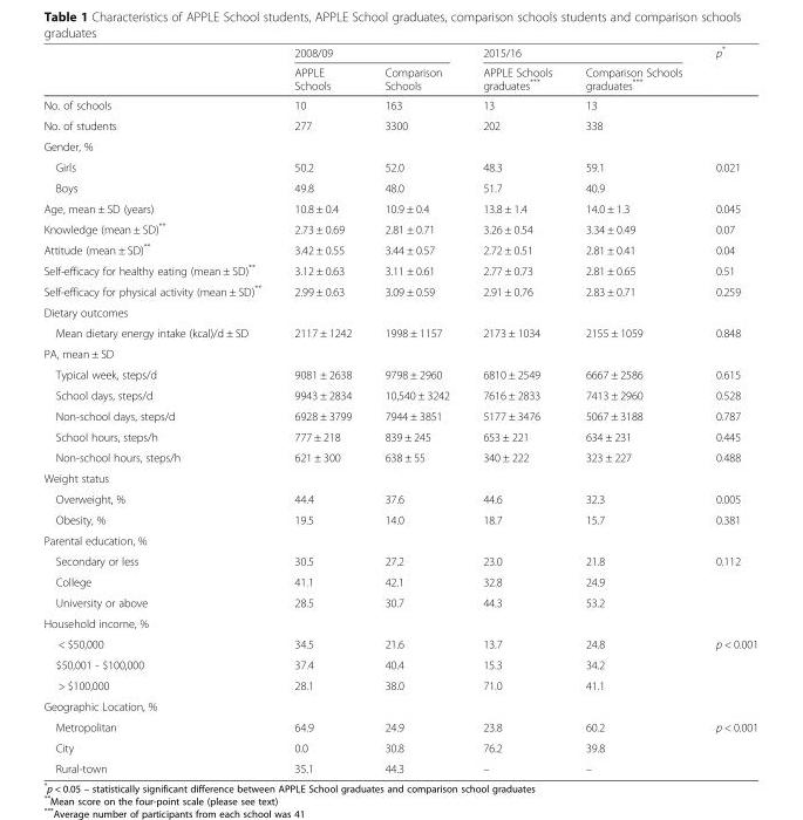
<table><thead><tr><td rowspan="2"></td><td colspan="2">2008/09</td><td colspan="2">2015/16</td><td rowspan="2">p*</td></tr><tr><td>APPLE Schools</td><td>Comparison Schools</td><td>APPLE Schools graduates***</td><td>Comparison Schools graduates***</td></tr></thead><tbody><tr><td>No. of schools</td><td>10</td><td>163</td><td>13</td><td>13</td><td></td></tr><tr><td>No. of students</td><td>277</td><td>3300</td><td>202</td><td>338</td><td></td></tr><tr><td colspan="6">Gender, %</td></tr><tr><td>Girls</td><td>50.2</td><td>52.0</td><td>48.3</td><td>59.1</td><td>0.021</td></tr><tr><td>Boys</td><td>49.8</td><td>48.0</td><td>51.7</td><td>40.9</td><td></td></tr><tr><td>Age, mean ± SD (years)</td><td>10.8 ± 0.4</td><td>10.9 ± 0.4</td><td>13.8 ± 1.4</td><td>14.0 ± 1.3</td><td>0.045</td></tr><tr><td>Knowledge (mean ± SD)**</td><td>2.73 ± 0.69</td><td>2.81 ± 0.71</td><td>3.26 ± 0.54</td><td>3.34 ± 0.49</td><td>0.07</td></tr><tr><td>Attitude (mean ± SD)**</td><td>3.42 ± 0.55</td><td>3.44 ± 0.57</td><td>2.72 ± 0.51</td><td>2.81 ± 0.41</td><td>0.04</td></tr><tr><td>Self-efficacy for healthy eating (mean ± SD)**</td><td>3.12 ± 0.63</td><td>3.11 ± 0.61</td><td>2.77 ± 0.73</td><td>2.81 ± 0.65</td><td>0.51</td></tr><tr><td>Self-efficacy for physical activity (mean ± SD)**</td><td>2.99 ± 0.63</td><td>3.09 ± 0.59</td><td>2.91 ± 0.76</td><td>2.83 ± 0.71</td><td>0.259</td></tr><tr><td colspan="6">Dietary outcomes</td></tr><tr><td>Mean dietary energy intake (kcal)/d ± SD</td><td>2117 ± 1242</td><td>1998 ± 1157</td><td>2173 ± 1034</td><td>2155 ± 1059</td><td>0.848</td></tr><tr><td colspan="6">PA, mean ± SD</td></tr><tr><td>Typical week, steps/d</td><td>9081 ± 2638</td><td>9798 ± 2960</td><td>6810 ± 2549</td><td>6667 ± 2586</td><td>0.615</td></tr><tr><td>School days, steps/d</td><td>9943 ± 2834</td><td>10,540 ± 3242</td><td>7616 ± 2833</td><td>7413 ± 2960</td><td>0.528</td></tr><tr><td>Non-school days, steps/d</td><td>6928 ± 3799</td><td>7944 ± 3851</td><td>5177 ± 3476</td><td>5067 ± 3188</td><td>0.787</td></tr><tr><td>School hours, steps/h</td><td>777 ± 218</td><td>839 ± 245</td><td>653 ± 221</td><td>634 ± 231</td><td>0.445</td></tr><tr><td>Non-school hours, steps/h</td><td>621 ± 300</td><td>638 ± 55</td><td>340 ± 222</td><td>323 ± 227</td><td>0.488</td></tr><tr><td colspan="6">Weight status</td></tr><tr><td>Overweight, %</td><td>44.4</td><td>37.6</td><td>44.6</td><td>32.3</td><td>0.005</td></tr><tr><td>Obesity, %</td><td>19.5</td><td>14.0</td><td>18.7</td><td>15.7</td><td>0.381</td></tr><tr><td colspan="6">Parental education, %</td></tr><tr><td>Secondary or less</td><td>30.5</td><td>27.2</td><td>23.0</td><td>21.8</td><td>0.112</td></tr><tr><td>College</td><td>41.1</td><td>42.1</td><td>32.8</td><td>24.9</td><td></td></tr><tr><td>University or above</td><td>28.5</td><td>30.7</td><td>44.3</td><td>53.2</td><td></td></tr><tr><td colspan="6">Household income, %</td></tr><tr><td>&lt; $50,000</td><td>34.5</td><td>21.6</td><td>13.7</td><td>24.8</td><td>p &lt; 0.001</td></tr><tr><td>$50,001 - $100,000</td><td>37.4</td><td>40.4</td><td>15.3</td><td>34.2</td><td></td></tr><tr><td>&gt; $100,000</td><td>28.1</td><td>38.0</td><td>71.0</td><td>41.1</td><td></td></tr><tr><td colspan="6">Geographic Location, %</td></tr><tr><td>Metropolitan</td><td>64.9</td><td>24.9</td><td>23.8</td><td>60.2</td><td>p &lt; 0.001</td></tr><tr><td>City</td><td>0.0</td><td>30.8</td><td>76.2</td><td>39.8</td><td></td></tr><tr><td>Rural-town</td><td>35.1</td><td>44.3</td><td>–</td><td>–</td><td></td></tr></tbody></table>